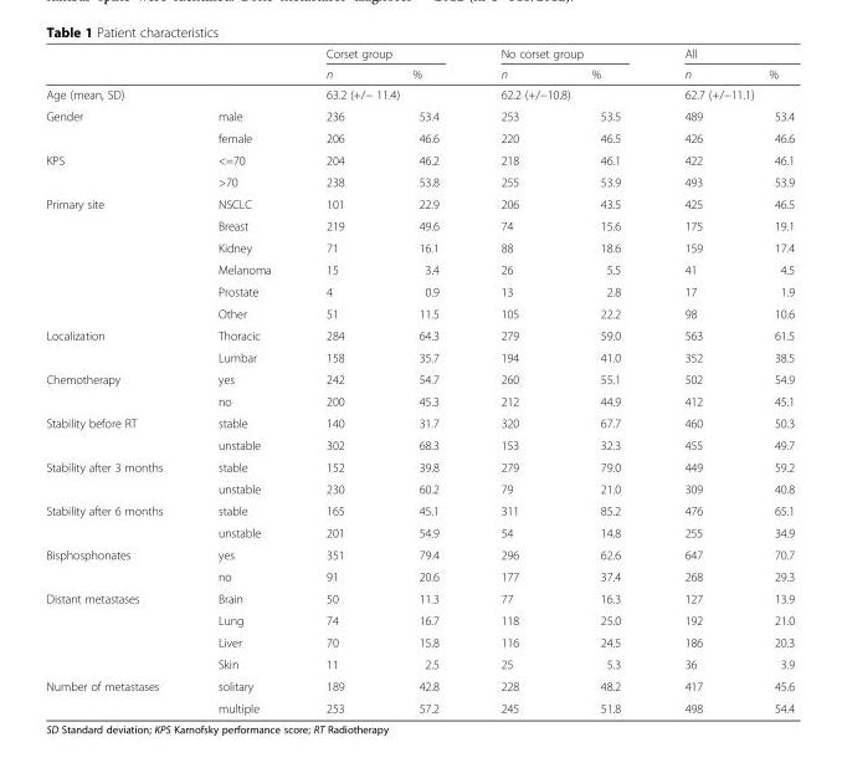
<table><thead><tr><td rowspan="2"></td><td rowspan="2"></td><td colspan="2">Corset group</td><td colspan="2">No corset group</td><td colspan="2">All</td></tr><tr><td>n</td><td>%</td><td>n</td><td>%</td><td>n</td><td>%</td></tr></thead><tbody><tr><td>Age (mean, SD)</td><td></td><td colspan="2">63.2 (+/− 11.4)</td><td colspan="2">62.2 (+/−10.8)</td><td colspan="2">62.7 (+/−11.1)</td></tr><tr><td rowspan="2">Gender</td><td>male</td><td>236</td><td>53.4</td><td>253</td><td>53.5</td><td>489</td><td>53.4</td></tr><tr><td>female</td><td>206</td><td>46.6</td><td>220</td><td>46.5</td><td>426</td><td>46.6</td></tr><tr><td rowspan="2">KPS</td><td>&lt;=70</td><td>204</td><td>46.2</td><td>218</td><td>46.1</td><td>422</td><td>46.1</td></tr><tr><td>&gt;70</td><td>238</td><td>53.8</td><td>255</td><td>53.9</td><td>493</td><td>53.9</td></tr><tr><td rowspan="6">Primary site</td><td>NSCLC</td><td>101</td><td>22.9</td><td>206</td><td>43.5</td><td>425</td><td>46.5</td></tr><tr><td>Breast</td><td>219</td><td>49.6</td><td>74</td><td>15.6</td><td>175</td><td>19.1</td></tr><tr><td>Kidney</td><td>71</td><td>16.1</td><td>88</td><td>18.6</td><td>159</td><td>17.4</td></tr><tr><td>Melanoma</td><td>15</td><td>3.4</td><td>26</td><td>5.5</td><td>41</td><td>4.5</td></tr><tr><td>Prostate</td><td>4</td><td>0.9</td><td>13</td><td>2.8</td><td>17</td><td>1.9</td></tr><tr><td>Other</td><td>51</td><td>11.5</td><td>105</td><td>22.2</td><td>98</td><td>10.6</td></tr><tr><td rowspan="2">Localization</td><td>Thoracic</td><td>284</td><td>64.3</td><td>279</td><td>59.0</td><td>563</td><td>61.5</td></tr><tr><td>Lumbar</td><td>158</td><td>35.7</td><td>194</td><td>41.0</td><td>352</td><td>38.5</td></tr><tr><td rowspan="2">Chemotherapy</td><td>yes</td><td>242</td><td>54.7</td><td>260</td><td>55.1</td><td>502</td><td>54.9</td></tr><tr><td>no</td><td>200</td><td>45.3</td><td>212</td><td>44.9</td><td>412</td><td>45.1</td></tr><tr><td rowspan="2">Stability before RT</td><td>stable</td><td>140</td><td>31.7</td><td>320</td><td>67.7</td><td>460</td><td>50.3</td></tr><tr><td>unstable</td><td>302</td><td>68.3</td><td>153</td><td>32.3</td><td>455</td><td>49.7</td></tr><tr><td rowspan="2">Stability after 3 months</td><td>stable</td><td>152</td><td>39.8</td><td>279</td><td>79.0</td><td>449</td><td>59.2</td></tr><tr><td>unstable</td><td>230</td><td>60.2</td><td>79</td><td>21.0</td><td>309</td><td>40.8</td></tr><tr><td rowspan="2">Stability after 6 months</td><td>stable</td><td>165</td><td>45.1</td><td>311</td><td>85.2</td><td>476</td><td>65.1</td></tr><tr><td>unstable</td><td>201</td><td>54.9</td><td>54</td><td>14.8</td><td>255</td><td>34.9</td></tr><tr><td rowspan="2">Bisphosphonates</td><td>yes</td><td>351</td><td>79.4</td><td>296</td><td>62.6</td><td>647</td><td>70.7</td></tr><tr><td>no</td><td>91</td><td>20.6</td><td>177</td><td>37.4</td><td>268</td><td>29.3</td></tr><tr><td rowspan="4">Distant metastases</td><td>Brain</td><td>50</td><td>11.3</td><td>77</td><td>16.3</td><td>127</td><td>13.9</td></tr><tr><td>Lung</td><td>74</td><td>16.7</td><td>118</td><td>25.0</td><td>192</td><td>21.0</td></tr><tr><td>Liver</td><td>70</td><td>15.8</td><td>116</td><td>24.5</td><td>186</td><td>20.3</td></tr><tr><td>Skin</td><td>11</td><td>2.5</td><td>25</td><td>5.3</td><td>36</td><td>3.9</td></tr><tr><td rowspan="2">Number of metastases</td><td>solitary</td><td>189</td><td>42.8</td><td>228</td><td>48.2</td><td>417</td><td>45.6</td></tr><tr><td>multiple</td><td>253</td><td>57.2</td><td>245</td><td>51.8</td><td>498</td><td>54.4</td></tr></tbody></table>